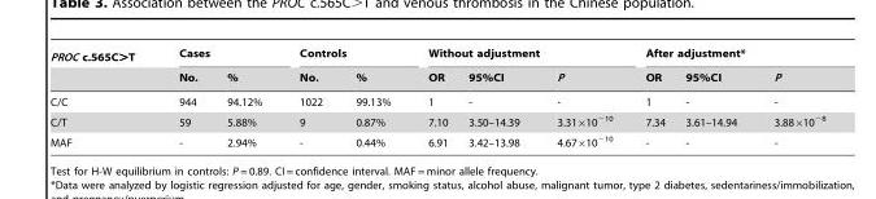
<table><thead><tr><td rowspan="2">PROC c.565C&gt;T</td><td colspan="2">Cases</td><td colspan="2">Controls</td><td colspan="3">Without adjustment</td><td colspan="3">After adjustment*</td></tr><tr><td>No.</td><td>%</td><td>No.</td><td>%</td><td>OR</td><td>95%CI</td><td>P</td><td>OR</td><td>95%CI</td><td>P</td></tr></thead><tbody><tr><td>C/C</td><td>944</td><td>94.12%</td><td>1022</td><td>99.13%</td><td>1</td><td>-</td><td>-</td><td>1</td><td>-</td><td>-</td></tr><tr><td>C/T</td><td>59</td><td>5.88%</td><td>9</td><td>0.87%</td><td>7.10</td><td>3.50–14.39</td><td>3.31×10<sup>−10</sup></td><td>7.34</td><td>3.61–14.94</td><td>3.88×10<sup>−8</sup></td></tr><tr><td>MAF</td><td>-</td><td>2.94%</td><td>-</td><td>0.44%</td><td>6.91</td><td>3.42–13.98</td><td>4.67×10<sup>−10</sup></td><td>-</td><td>-</td><td>-</td></tr></tbody></table>